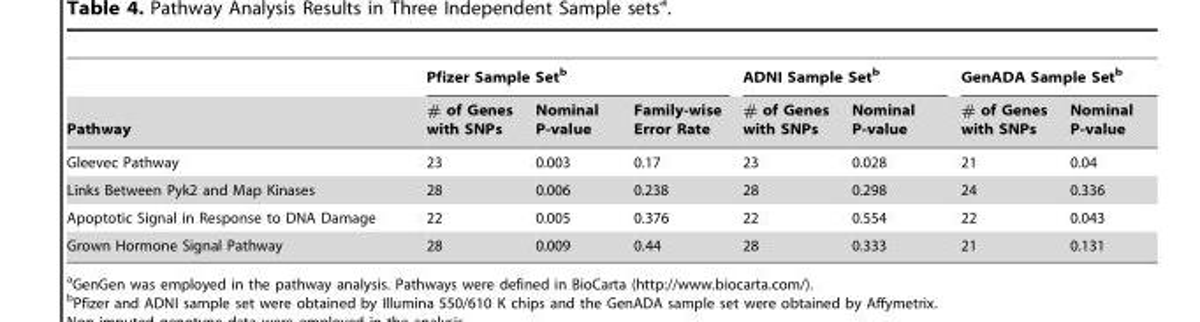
<table><thead><tr><td rowspan="2">Pathway</td><td colspan="3">Pfizer Sample Set<sup>b</sup></td><td colspan="2">ADNI Sample Set<sup>b</sup></td><td colspan="2">GenADA Sample Set<sup>b</sup></td></tr><tr><td># of Genes with SNPs</td><td>Nominal P-value</td><td>Family-wise Error Rate</td><td># of Genes with SNPs</td><td>Nominal P-value</td><td># of Genes with SNPs</td><td>Nominal P-value</td></tr></thead><tbody><tr><td>Gleevec Pathway</td><td>23</td><td>0.003</td><td>0.17</td><td>23</td><td>0.028</td><td>21</td><td>0.04</td></tr><tr><td>Links Between Pyk2 and Map Kinases</td><td>28</td><td>0.006</td><td>0.238</td><td>28</td><td>0.298</td><td>24</td><td>0.336</td></tr><tr><td>Apoptotic Signal in Response to DNA Damage</td><td>22</td><td>0.005</td><td>0.376</td><td>22</td><td>0.554</td><td>22</td><td>0.043</td></tr><tr><td>Grown Hormone Signal Pathway</td><td>28</td><td>0.009</td><td>0.44</td><td>28</td><td>0.333</td><td>21</td><td>0.131</td></tr></tbody></table>